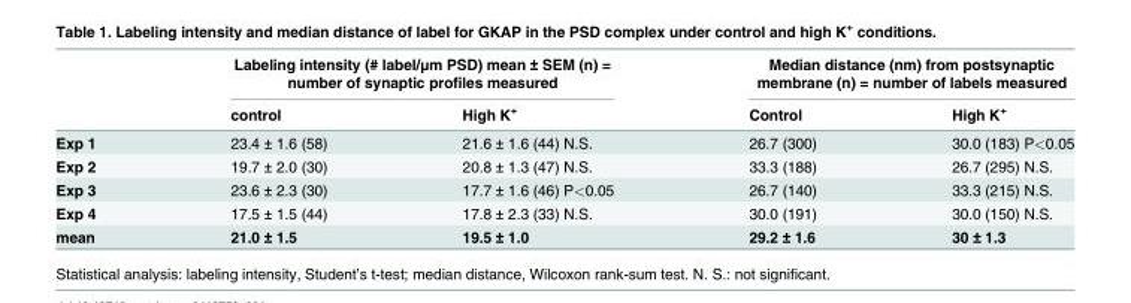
<table><thead><tr><td rowspan="2"></td><td colspan="2">Labeling intensity (# label/μm PSD) mean ± SEM (n) = number of synaptic profiles measured</td><td colspan="2">Median distance (nm) from postsynaptic membrane (n) = number of labels measured</td></tr><tr><td>control</td><td>High K<sup>+</sup></td><td>Control</td><td>High K<sup>+</sup></td></tr></thead><tbody><tr><td>Exp 1</td><td>23.4 ± 1.6 (58)</td><td>21.6 ± 1.6 (44) N.S.</td><td>26.7 (300)</td><td>30.0 (183) P&lt;0.05</td></tr><tr><td>Exp 2</td><td>19.7 ± 2.0 (30)</td><td>20.8 ± 1.3 (47) N.S.</td><td>33.3 (188)</td><td>26.7 (295) N.S.</td></tr><tr><td>Exp 3</td><td>23.6 ± 2.3 (30)</td><td>17.7 ± 1.6 (46) P&lt;0.05</td><td>26.7 (140)</td><td>33.3 (215) N.S.</td></tr><tr><td>Exp 4</td><td>17.5 ± 1.5 (44)</td><td>17.8 ± 2.3 (33) N.S.</td><td>30.0 (191)</td><td>30.0 (150) N.S.</td></tr><tr><td>mean</td><td>21.0 ± 1.5</td><td>19.5 ± 1.0</td><td>29.2 ± 1.6</td><td>30 ± 1.3</td></tr></tbody></table>